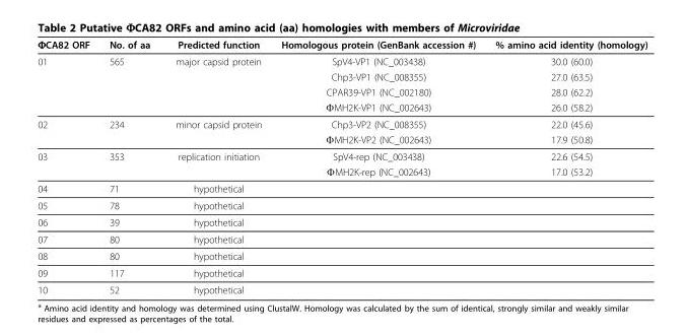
<table><thead><tr><td>ΦCA82 ORF</td><td>No. of aa</td><td>Predicted function</td><td>Homologous protein (GenBank accession #)</td><td>% amino acid identity (homology)</td></tr></thead><tbody><tr><td rowspan="4">01</td><td>565</td><td>major capsid protein</td><td>SpV4-VP1 (NC_003438)</td><td>30.0 (60.0)</td></tr><tr><td></td><td></td><td>Chp3-VP1 (NC_008355)</td><td>27.0 (63.5)</td></tr><tr><td></td><td></td><td>CPAR39-VP1 (NC_002180)</td><td>28.0 (62.2)</td></tr><tr><td></td><td></td><td>ΦMH2K-VP1 (NC_002643)</td><td>26.0 (58.2)</td></tr><tr><td rowspan="2">02</td><td>234</td><td>minor capsid protein</td><td>Chp3-VP2 (NC_008355)</td><td>22.0 (45.6)</td></tr><tr><td></td><td></td><td>ΦMH2K-VP2 (NC_002643)</td><td>17.9 (50.8)</td></tr><tr><td rowspan="2">03</td><td>353</td><td>replication initiation</td><td>SpV4-rep (NC_003438)</td><td>22.6 (54.5)</td></tr><tr><td></td><td></td><td>ΦMH2K-rep (NC_002643)</td><td>17.0 (53.2)</td></tr><tr><td>04</td><td>71</td><td>hypothetical</td><td></td><td></td></tr><tr><td>05</td><td>78</td><td>hypothetical</td><td></td><td></td></tr><tr><td>06</td><td>39</td><td>hypothetical</td><td></td><td></td></tr><tr><td>07</td><td>80</td><td>hypothetical</td><td></td><td></td></tr><tr><td>08</td><td>80</td><td>hypothetical</td><td></td><td></td></tr><tr><td>09</td><td>117</td><td>hypothetical</td><td></td><td></td></tr><tr><td>10</td><td>52</td><td>hypothetical</td><td></td><td></td></tr></tbody></table>